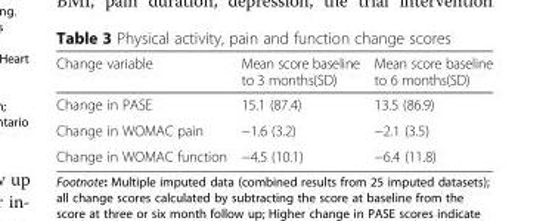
<table><thead><tr><td>Change variable</td><td>Mean score baseline to 3 months(SD)</td><td>Mean score baseline to 6 months(SD)</td></tr></thead><tbody><tr><td>Change in PASE</td><td>15.1 (87.4)</td><td>13.5 (86.9)</td></tr><tr><td>Change in WOMAC pain</td><td>−1.6 (3.2)</td><td>−2.1 (3.5)</td></tr><tr><td>Change in WOMAC function</td><td>−4.5 (10.1)</td><td>−6.4 (11.8)</td></tr></tbody></table>